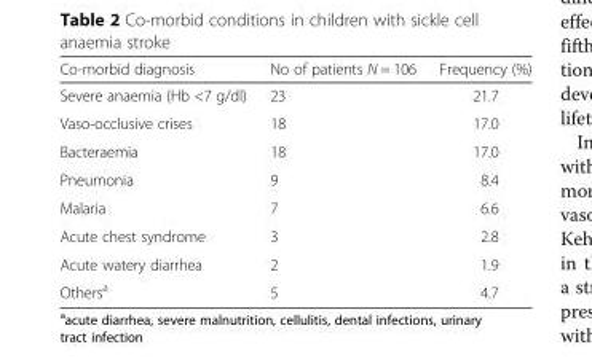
<table><thead><tr><td>Co-morbid diagnosis</td><td>No of patients N = 106</td><td>Frequency (%)</td></tr></thead><tbody><tr><td>Severe anaemia (Hb &lt;7 g/dl)</td><td>23</td><td>21.7</td></tr><tr><td>Vaso-occlusive crises</td><td>18</td><td>17.0</td></tr><tr><td>Bacteraemia</td><td>18</td><td>17.0</td></tr><tr><td>Pneumonia</td><td>9</td><td>8.4</td></tr><tr><td>Malaria</td><td>7</td><td>6.6</td></tr><tr><td>Acute chest syndrome</td><td>3</td><td>2.8</td></tr><tr><td>Acute watery diarrhea</td><td>2</td><td>1.9</td></tr><tr><td>Others<sup>a</sup></td><td>5</td><td>4.7</td></tr></tbody></table>